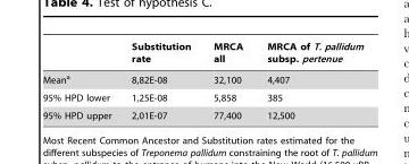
<table><thead><tr><td></td><td>Substitution rate</td><td>MRCA all</td><td>MRCA of T. pallidum subsp. pertenue</td></tr></thead><tbody><tr><td>Mean<sup>a</sup></td><td>8,82E-08</td><td>32,100</td><td>4,407</td></tr><tr><td>95% HPD lower</td><td>1,25E-08</td><td>5,858</td><td>385</td></tr><tr><td>95% HPD upper</td><td>2,01E-07</td><td>77,400</td><td>12,500</td></tr></tbody></table>